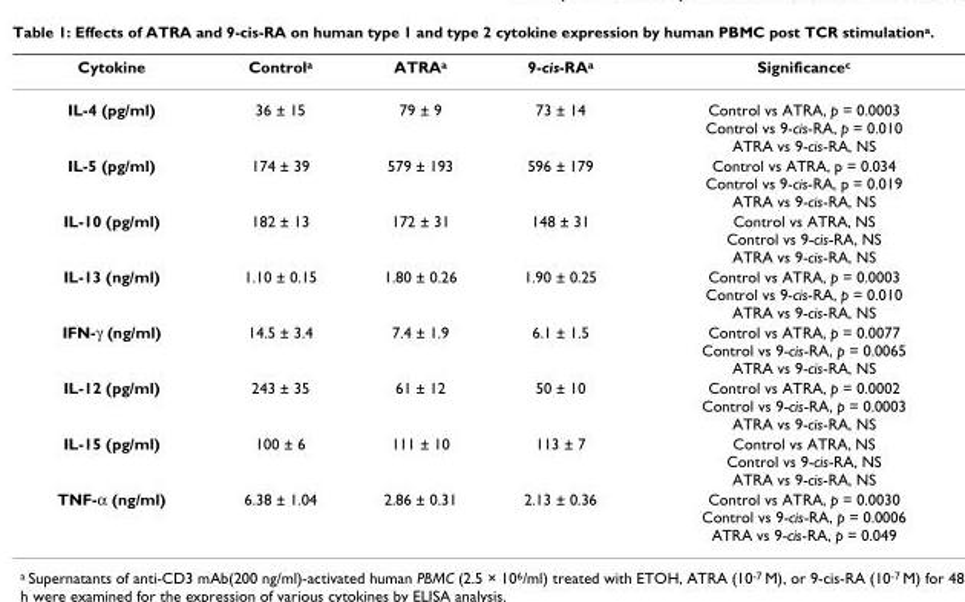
<table><thead><tr><td>Cytokine</td><td>Control<sup>a</sup></td><td>ATRA<sup>a</sup></td><td>9-cis-RA<sup>a</sup></td><td>Significance<sup>c</sup></td></tr></thead><tbody><tr><td>IL-4 (pg/ml)</td><td>36 ± 15</td><td>79 ± 9</td><td>73 ± 14</td><td>Control vs ATRA, p = 0.0003 Control vs 9-cis-RA, p = 0.010 ATRA vs 9-cis-RA, NS</td></tr><tr><td>IL-5 (pg/ml)</td><td>174 ± 39</td><td>579 ± 193</td><td>596 ± 179</td><td>Control vs ATRA, p = 0.034 Control vs 9-cis-RA, p = 0.019 ATRA vs 9-cis-RA, NS</td></tr><tr><td>IL-10 (pg/ml)</td><td>182 ± 13</td><td>172 ± 31</td><td>148 ± 31</td><td>Control vs ATRA, NS Control vs 9-cis-RA, NS ATRA vs 9-cis-RA, NS</td></tr><tr><td>IL-13 (ng/ml)</td><td>1.10 ± 0.15</td><td>1.80 ± 0.26</td><td>1.90 ± 0.25</td><td>Control vs ATRA, p = 0.0003 Control vs 9-cis-RA, p = 0.010 ATRA vs 9-cis-RA, NS</td></tr><tr><td>IFN-γ (ng/ml)</td><td>14.5 ± 3.4</td><td>7.4 ± 1.9</td><td>6.1 ± 1.5</td><td>Control vs ATRA, p = 0.0077 Control vs 9-cis-RA, p = 0.0065 ATRA vs 9-cis-RA, NS</td></tr><tr><td>IL-12 (pg/ml)</td><td>243 ± 35</td><td>61 ± 12</td><td>50 ± 10</td><td>Control vs ATRA, p = 0.0002 Control vs 9-cis-RA, p = 0.0003 ATRA vs 9-cis-RA, NS</td></tr><tr><td>IL-15 (pg/ml)</td><td>100 ± 6</td><td>111 ± 10</td><td>113 ± 7</td><td>Control vs ATRA, NS Control vs 9-cis-RA, NS ATRA vs 9-cis-RA, NS</td></tr><tr><td>TNF-α (ng/ml)</td><td>6.38 ± 1.04</td><td>2.86 ± 0.31</td><td>2.13 ± 0.36</td><td>Control vs ATRA, p = 0.0030 Control vs 9-cis-RA, p = 0.0006 ATRA vs 9-cis-RA, p = 0.049</td></tr></tbody></table>